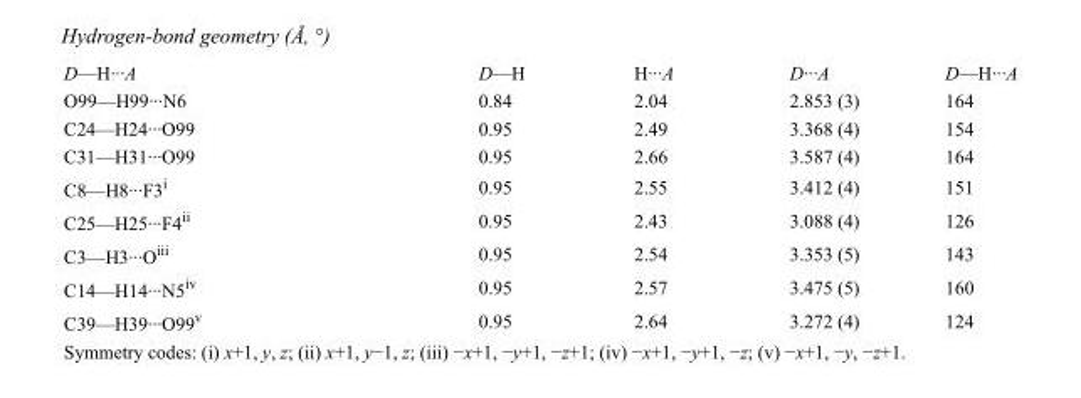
<table><tbody><tr><td>D—H···A</td><td>D—H</td><td>H···A</td><td>D···A</td><td>D—H···A</td></tr><tr><td>O99—H99···N6</td><td>0.84</td><td>2.04</td><td>2.853 (3)</td><td>164</td></tr><tr><td>C24—H24···O99</td><td>0.95</td><td>2.49</td><td>3.368 (4)</td><td>154</td></tr><tr><td>C31—H31···O99</td><td>0.95</td><td>2.66</td><td>3.587 (4)</td><td>164</td></tr><tr><td>C8—H8···F3<sup>i</sup></td><td>0.95</td><td>2.55</td><td>3.412 (4)</td><td>151</td></tr><tr><td>C25—H25···F4<sup>ii</sup></td><td>0.95</td><td>2.43</td><td>3.088 (4)</td><td>126</td></tr><tr><td>C3—H3···O<sup>iii</sup></td><td>0.95</td><td>2.54</td><td>3.353 (5)</td><td>143</td></tr><tr><td>C14—H14···N5<sup>iv</sup></td><td>0.95</td><td>2.57</td><td>3.475 (5)</td><td>160</td></tr><tr><td>C39—H39···O99<sup>v</sup></td><td>0.95</td><td>2.64</td><td>3.272 (4)</td><td>124</td></tr></tbody></table>